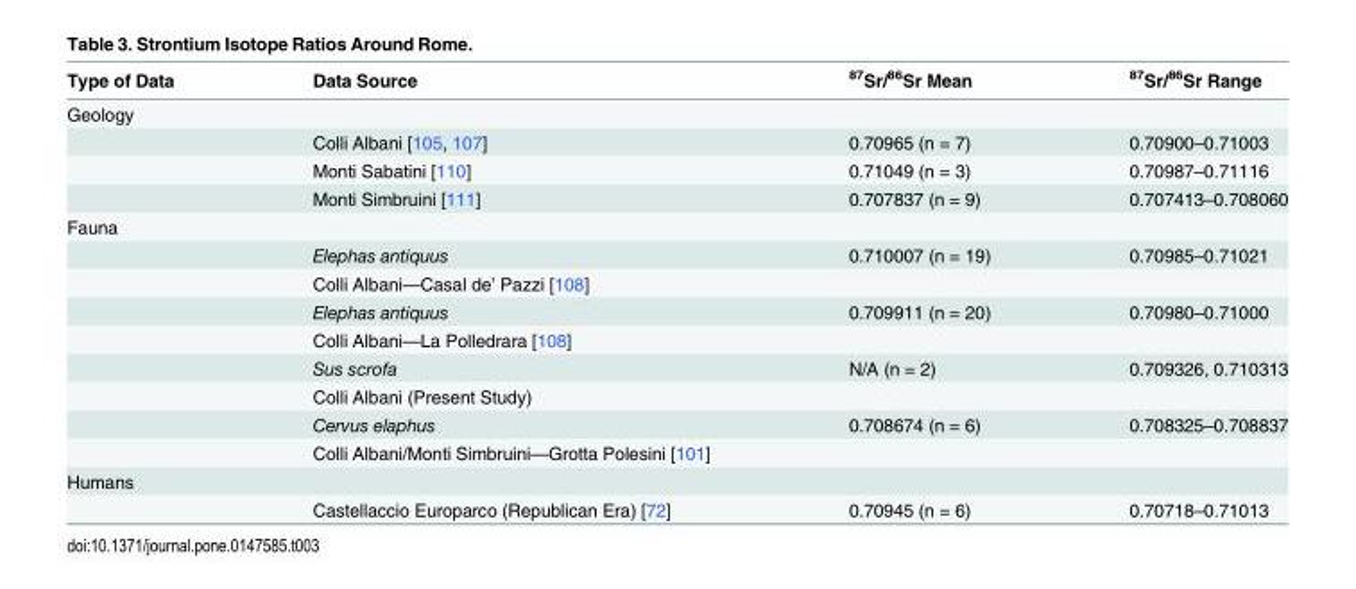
<table><thead><tr><td>Type of Data</td><td>Data Source</td><td><sup>87</sup>Sr/<sup>86</sup>Sr Mean</td><td><sup>87</sup>Sr/<sup>86</sup>Sr Range</td></tr></thead><tbody><tr><td colspan="4">Geology</td></tr><tr><td></td><td>Colli Albani [105, 107]</td><td>0.70965 (n = 7)</td><td>0.70900–0.71003</td></tr><tr><td></td><td>Monti Sabatini [110]</td><td>0.71049 (n = 3)</td><td>0.70987–0.71116</td></tr><tr><td></td><td>Monti Simbruini [111]</td><td>0.707837 (n = 9)</td><td>0.707413–0.708060</td></tr><tr><td colspan="4">Fauna</td></tr><tr><td></td><td>Elephas antiquus</td><td>0.710007 (n = 19)</td><td>0.70985–0.71021</td></tr><tr><td></td><td>Colli Albani—Casal de’ Pazzi [108]</td><td></td><td></td></tr><tr><td></td><td>Elephas antiquus</td><td>0.709911 (n = 20)</td><td>0.70980–0.71000</td></tr><tr><td></td><td>Colli Albani—La Polledrara [108]</td><td></td><td></td></tr><tr><td></td><td>Sus scrofa</td><td>N/A (n = 2)</td><td>0.709326, 0.710313</td></tr><tr><td></td><td>Colli Albani (Present Study)</td><td></td><td></td></tr><tr><td></td><td>Cervus elaphus</td><td>0.708674 (n = 6)</td><td>0.708325–0.708837</td></tr><tr><td></td><td>Colli Albani/Monti Simbruini—Grotta Polesini [101]</td><td></td><td></td></tr><tr><td colspan="4">Humans</td></tr><tr><td></td><td>Castellaccio Europarco (Republican Era) [72]</td><td>0.70945 (n = 6)</td><td>0.70718–0.71013</td></tr></tbody></table>